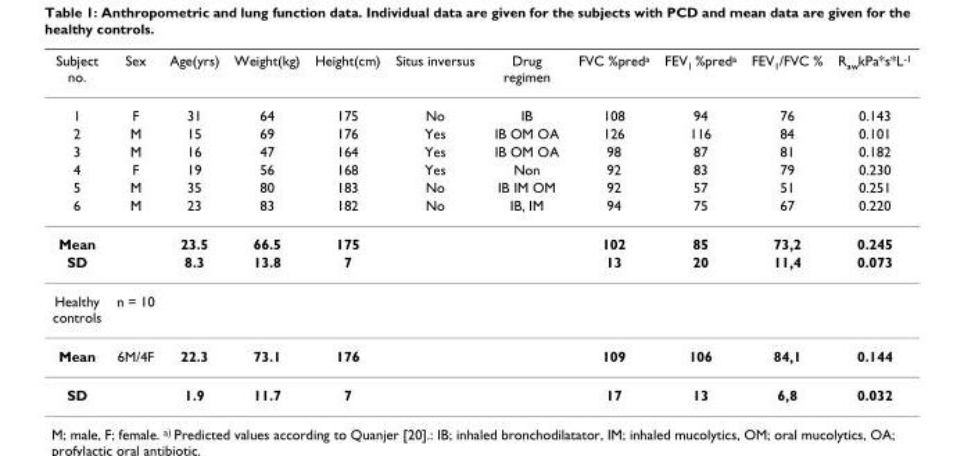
<table><thead><tr><td>Subject no.</td><td>Sex</td><td>Age(yrs)</td><td>Weight(kg)</td><td>Height(cm)</td><td>Situs inversus</td><td>Drug regimen</td><td>FVC %pred<sup>a</sup></td><td>FEV<sub>1</sub> %pred<sup>a</sup></td><td>FEV<sub>1</sub>/FVC %</td><td>R<sub>aw</sub>kPa*s*L<sup>-1</sup></td></tr></thead><tbody><tr><td>1</td><td>F</td><td>31</td><td>64</td><td>175</td><td>No</td><td>IB</td><td>108</td><td>94</td><td>76</td><td>0.143</td></tr><tr><td>2</td><td>M</td><td>15</td><td>69</td><td>176</td><td>Yes</td><td>IB OM OA</td><td>126</td><td>116</td><td>84</td><td>0.101</td></tr><tr><td>3</td><td>M</td><td>16</td><td>47</td><td>164</td><td>Yes</td><td>IB OM OA</td><td>98</td><td>87</td><td>81</td><td>0.182</td></tr><tr><td>4</td><td>F</td><td>19</td><td>56</td><td>168</td><td>Yes</td><td>Non</td><td>92</td><td>83</td><td>79</td><td>0.230</td></tr><tr><td>5</td><td>M</td><td>35</td><td>80</td><td>183</td><td>No</td><td>IB IM OM</td><td>92</td><td>57</td><td>51</td><td>0.251</td></tr><tr><td>6</td><td>M</td><td>23</td><td>83</td><td>182</td><td>No</td><td>IB, IM</td><td>94</td><td>75</td><td>67</td><td>0.220</td></tr><tr><td>Mean</td><td></td><td>23.5</td><td>66.5</td><td>175</td><td></td><td></td><td>102</td><td>85</td><td>73,2</td><td>0.245</td></tr><tr><td>SD</td><td></td><td>8.3</td><td>13.8</td><td>7</td><td></td><td></td><td>13</td><td>20</td><td>11,4</td><td>0.073</td></tr><tr><td>Healthy controls</td><td>n = 10</td><td></td><td></td><td></td><td></td><td></td><td></td><td></td><td></td><td></td></tr><tr><td>Mean</td><td>6M/4F</td><td>22.3</td><td>73.1</td><td>176</td><td></td><td></td><td>109</td><td>106</td><td>84,1</td><td>0.144</td></tr><tr><td>SD</td><td></td><td>1.9</td><td>11.7</td><td>7</td><td></td><td></td><td>17</td><td>13</td><td>6,8</td><td>0.032</td></tr></tbody></table>